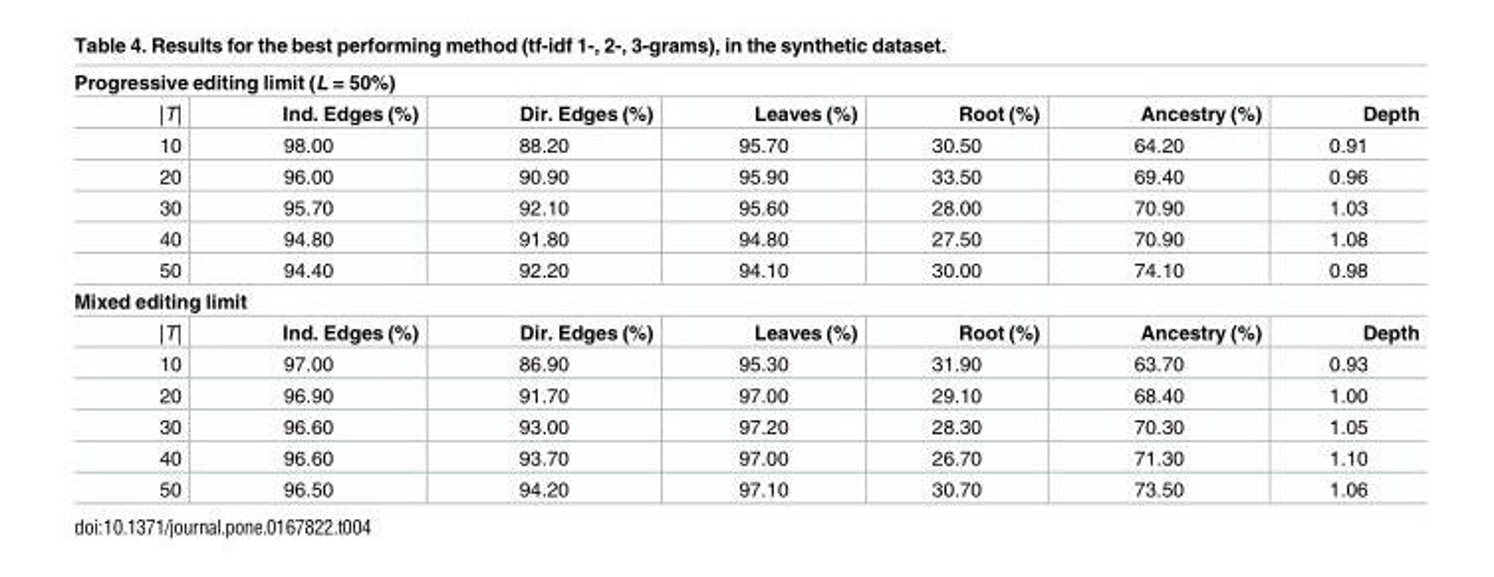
<table><tbody><tr><td colspan="7">Progressive editing limit (L = 50%)</td></tr><tr><td>|T|</td><td>Ind. Edges (%)</td><td>Dir. Edges (%)</td><td>Leaves (%)</td><td>Root (%)</td><td>Ancestry (%)</td><td>Depth</td></tr><tr><td>10</td><td>98.00</td><td>88.20</td><td>95.70</td><td>30.50</td><td>64.20</td><td>0.91</td></tr><tr><td>20</td><td>96.00</td><td>90.90</td><td>95.90</td><td>33.50</td><td>69.40</td><td>0.96</td></tr><tr><td>30</td><td>95.70</td><td>92.10</td><td>95.60</td><td>28.00</td><td>70.90</td><td>1.03</td></tr><tr><td>40</td><td>94.80</td><td>91.80</td><td>94.80</td><td>27.50</td><td>70.90</td><td>1.08</td></tr><tr><td>50</td><td>94.40</td><td>92.20</td><td>94.10</td><td>30.00</td><td>74.10</td><td>0.98</td></tr><tr><td colspan="7">Mixed editing limit</td></tr><tr><td>|T|</td><td>Ind. Edges (%)</td><td>Dir. Edges (%)</td><td>Leaves (%)</td><td>Root (%)</td><td>Ancestry (%)</td><td>Depth</td></tr><tr><td>10</td><td>97.00</td><td>86.90</td><td>95.30</td><td>31.90</td><td>63.70</td><td>0.93</td></tr><tr><td>20</td><td>96.90</td><td>91.70</td><td>97.00</td><td>29.10</td><td>68.40</td><td>1.00</td></tr><tr><td>30</td><td>96.60</td><td>93.00</td><td>97.20</td><td>28.30</td><td>70.30</td><td>1.05</td></tr><tr><td>40</td><td>96.60</td><td>93.70</td><td>97.00</td><td>26.70</td><td>71.30</td><td>1.10</td></tr><tr><td>50</td><td>96.50</td><td>94.20</td><td>97.10</td><td>30.70</td><td>73.50</td><td>1.06</td></tr></tbody></table>